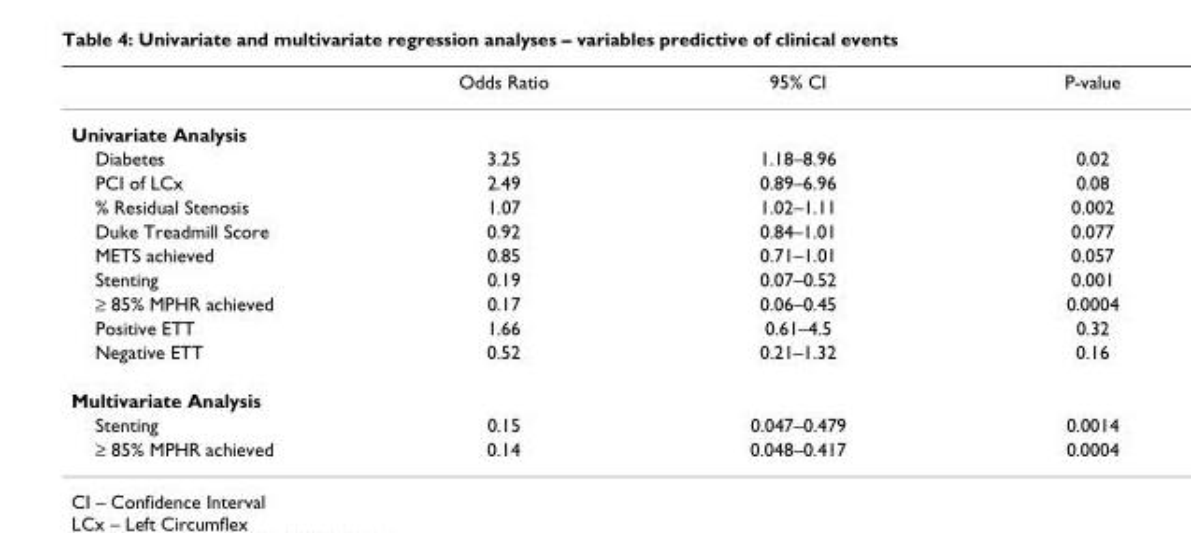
<table><thead><tr><td></td><td>Odds Ratio</td><td>95% CI</td><td>P-value</td></tr></thead><tbody><tr><td colspan="4">Univariate Analysis</td></tr><tr><td>Diabetes</td><td>3.25</td><td>1.18–8.96</td><td>0.02</td></tr><tr><td>PCI of LCx</td><td>2.49</td><td>0.89–6.96</td><td>0.08</td></tr><tr><td>% Residual Stenosis</td><td>1.07</td><td>1.02–1.11</td><td>0.002</td></tr><tr><td>Duke Treadmill Score</td><td>0.92</td><td>0.84–1.01</td><td>0.077</td></tr><tr><td>METS achieved</td><td>0.85</td><td>0.71–1.01</td><td>0.057</td></tr><tr><td>Stenting</td><td>0.19</td><td>0.07–0.52</td><td>0.001</td></tr><tr><td>≥ 85% MPHR achieved</td><td>0.17</td><td>0.06–0.45</td><td>0.0004</td></tr><tr><td>Positive ETT</td><td>1.66</td><td>0.61–4.5</td><td>0.32</td></tr><tr><td>Negative ETT</td><td>0.52</td><td>0.21–1.32</td><td>0.16</td></tr><tr><td colspan="4">Multivariate Analysis</td></tr><tr><td>Stenting</td><td>0.15</td><td>0.047–0.479</td><td>0.0014</td></tr><tr><td>≥ 85% MPHR achieved</td><td>0.14</td><td>0.048–0.417</td><td>0.0004</td></tr></tbody></table>